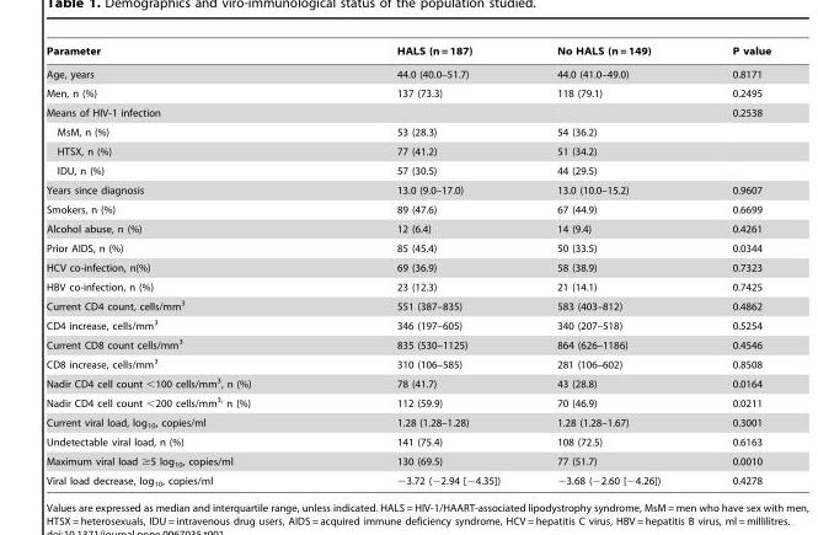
<table><thead><tr><td>Parameter</td><td>HALS (n = 187)</td><td>No HALS (n = 149)</td><td>P value</td></tr></thead><tbody><tr><td>Age, years</td><td>44.0 (40.0–51.7)</td><td>44.0 (41.0–49.0)</td><td>0.8171</td></tr><tr><td>Men, n (%)</td><td>137 (73.3)</td><td>118 (79.1)</td><td>0.2495</td></tr><tr><td>Means of HIV-1 infection</td><td></td><td></td><td>0.2538</td></tr><tr><td>MsM, n (%)</td><td>53 (28.3)</td><td>54 (36.2)</td><td></td></tr><tr><td>HTSX, n (%)</td><td>77 (41.2)</td><td>51 (34.2)</td><td></td></tr><tr><td>IDU, n (%)</td><td>57 (30.5)</td><td>44 (29.5)</td><td></td></tr><tr><td>Years since diagnosis</td><td>13.0 (9.0–17.0)</td><td>13.0 (10.0–15.2)</td><td>0.9607</td></tr><tr><td>Smokers, n (%)</td><td>89 (47.6)</td><td>67 (44.9)</td><td>0.6699</td></tr><tr><td>Alcohol abuse, n (%)</td><td>12 (6.4)</td><td>14 (9.4)</td><td>0.4261</td></tr><tr><td>Prior AIDS, n (%)</td><td>85 (45.4)</td><td>50 (33.5)</td><td>0.0344</td></tr><tr><td>HCV co-infection, n(%)</td><td>69 (36.9)</td><td>58 (38.9)</td><td>0.7323</td></tr><tr><td>HBV co-infection, n (%)</td><td>23 (12.3)</td><td>21 (14.1)</td><td>0.7425</td></tr><tr><td>Current CD4 count, cells/mm<sup>3</sup></td><td>551 (387–835)</td><td>583 (403–812)</td><td>0.4862</td></tr><tr><td>CD4 increase, cells/mm<sup>3</sup></td><td>346 (197–605)</td><td>340 (207–518)</td><td>0.5254</td></tr><tr><td>Current CD8 count cells/mm<sup>3</sup></td><td>835 (530–1125)</td><td>864 (626–1186)</td><td>0.4546</td></tr><tr><td>CD8 increase, cells/mm<sup>3</sup></td><td>310 (106–585)</td><td>281 (106–602)</td><td>0.8508</td></tr><tr><td>Nadir CD4 cell count &lt;100 cells/mm<sup>3</sup>, n (%)</td><td>78 (41.7)</td><td>43 (28.8)</td><td>0.0164</td></tr><tr><td>Nadir CD4 cell count &lt;200 cells/mm<sup>3,</sup> n (%)</td><td>112 (59.9)</td><td>70 (46.9)</td><td>0.0211</td></tr><tr><td>Current viral load, log<sub>10</sub>, copies/ml</td><td>1.28 (1.28–1.28)</td><td>1.28 (1.28–1.67)</td><td>0.3001</td></tr><tr><td>Undetectable viral load, n (%)</td><td>141 (75.4)</td><td>108 (72.5)</td><td>0.6163</td></tr><tr><td>Maximum viral load ≥5 log<sub>10</sub>, copies/ml</td><td>130 (69.5)</td><td>77 (51.7)</td><td>0.0010</td></tr><tr><td>Viral load decrease, log<sub>10</sub>, copies/ml</td><td>−3.72 (−2.94 [−4.35])</td><td>−3.68 (−2.60 [−4.26])</td><td>0.4278</td></tr></tbody></table>